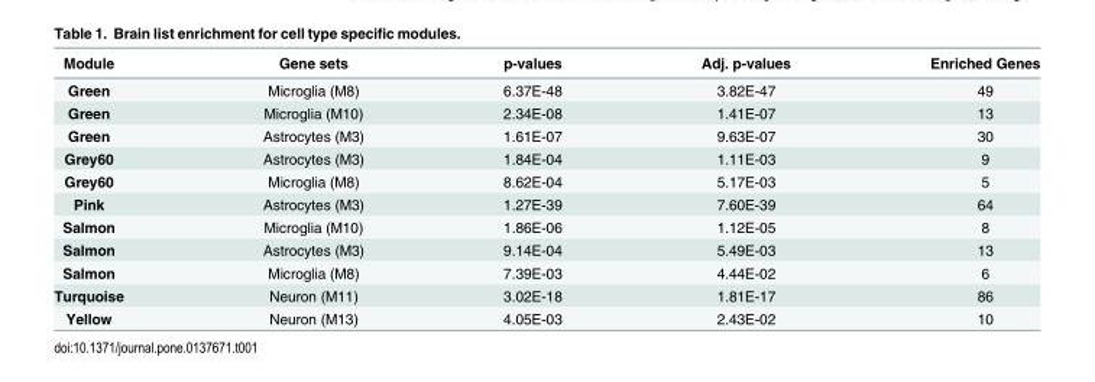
<table><thead><tr><td>Module</td><td>Gene sets</td><td>p-values</td><td>Adj. p-values</td><td>Enriched Genes</td></tr></thead><tbody><tr><td>Green</td><td>Microglia (M8)</td><td>6.37E-48</td><td>3.82E-47</td><td>49</td></tr><tr><td>Green</td><td>Microglia (M10)</td><td>2.34E-08</td><td>1.41E-07</td><td>13</td></tr><tr><td>Green</td><td>Astrocytes (M3)</td><td>1.61E-07</td><td>9.63E-07</td><td>30</td></tr><tr><td>Grey60</td><td>Astrocytes (M3)</td><td>1.84E-04</td><td>1.11E-03</td><td>9</td></tr><tr><td>Grey60</td><td>Microglia (M8)</td><td>8.62E-04</td><td>5.17E-03</td><td>5</td></tr><tr><td>Pink</td><td>Astrocytes (M3)</td><td>1.27E-39</td><td>7.60E-39</td><td>64</td></tr><tr><td>Salmon</td><td>Microglia (M10)</td><td>1.86E-06</td><td>1.12E-05</td><td>8</td></tr><tr><td>Salmon</td><td>Astrocytes (M3)</td><td>9.14E-04</td><td>5.49E-03</td><td>13</td></tr><tr><td>Salmon</td><td>Microglia (M8)</td><td>7.39E-03</td><td>4.44E-02</td><td>6</td></tr><tr><td>Turquoise</td><td>Neuron (M11)</td><td>3.02E-18</td><td>1.81E-17</td><td>86</td></tr><tr><td>Yellow</td><td>Neuron (M13)</td><td>4.05E-03</td><td>2.43E-02</td><td>10</td></tr></tbody></table>